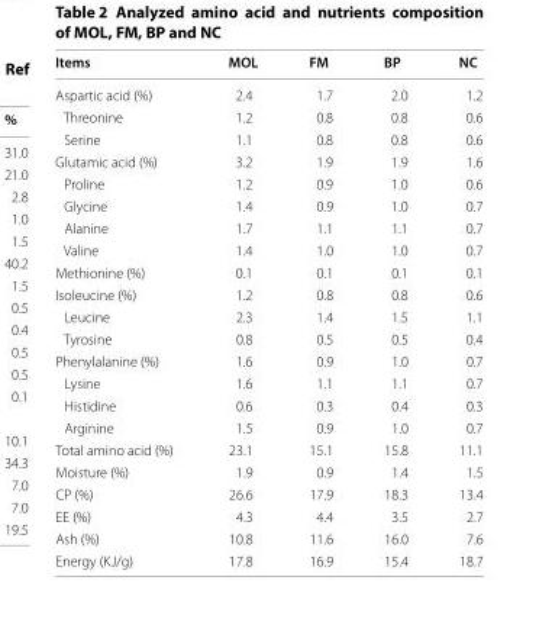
<table><thead><tr><td>Items</td><td>MOL</td><td>FM</td><td>BP</td><td>NC</td></tr></thead><tbody><tr><td>Aspartic acid (%)</td><td>2.4</td><td>1.7</td><td>2.0</td><td>1.2</td></tr><tr><td>Threonine</td><td>1.2</td><td>0.8</td><td>0.8</td><td>0.6</td></tr><tr><td>Serine</td><td>1.1</td><td>0.8</td><td>0.8</td><td>0.6</td></tr><tr><td>Glutamic acid (%)</td><td>3.2</td><td>1.9</td><td>1.9</td><td>1.6</td></tr><tr><td>Proline</td><td>1.2</td><td>0.9</td><td>1.0</td><td>0.6</td></tr><tr><td>Glycine</td><td>1.4</td><td>0.9</td><td>1.0</td><td>0.7</td></tr><tr><td>Alanine</td><td>1.7</td><td>1.1</td><td>1.1</td><td>0.7</td></tr><tr><td>Valine</td><td>1.4</td><td>1.0</td><td>1.0</td><td>0.7</td></tr><tr><td>Methionine (%)</td><td>0.1</td><td>0.1</td><td>0.1</td><td>0.1</td></tr><tr><td>Isoleucine (%)</td><td>1.2</td><td>0.8</td><td>0.8</td><td>0.6</td></tr><tr><td>Leucine</td><td>2.3</td><td>1.4</td><td>1.5</td><td>1.1</td></tr><tr><td>Tyrosine</td><td>0.8</td><td>0.5</td><td>0.5</td><td>0.4</td></tr><tr><td>Phenylalanine (%)</td><td>1.6</td><td>0.9</td><td>1.0</td><td>0.7</td></tr><tr><td>Lysine</td><td>1.6</td><td>1.1</td><td>1.1</td><td>0.7</td></tr><tr><td>Histidine</td><td>0.6</td><td>0.3</td><td>0.4</td><td>0.3</td></tr><tr><td>Arginine</td><td>1.5</td><td>0.9</td><td>1.0</td><td>0.7</td></tr><tr><td>Total amino acid (%)</td><td>23.1</td><td>15.1</td><td>15.8</td><td>11.1</td></tr><tr><td>Moisture (%)</td><td>1.9</td><td>0.9</td><td>1.4</td><td>1.5</td></tr><tr><td>CP (%)</td><td>26.6</td><td>17.9</td><td>18.3</td><td>13.4</td></tr><tr><td>EE (%)</td><td>4.3</td><td>4.4</td><td>3.5</td><td>2.7</td></tr><tr><td>Ash (%)</td><td>10.8</td><td>11.6</td><td>16.0</td><td>7.6</td></tr><tr><td>Energy (KJ/g)</td><td>17.8</td><td>16.9</td><td>15.4</td><td>18.7</td></tr></tbody></table>